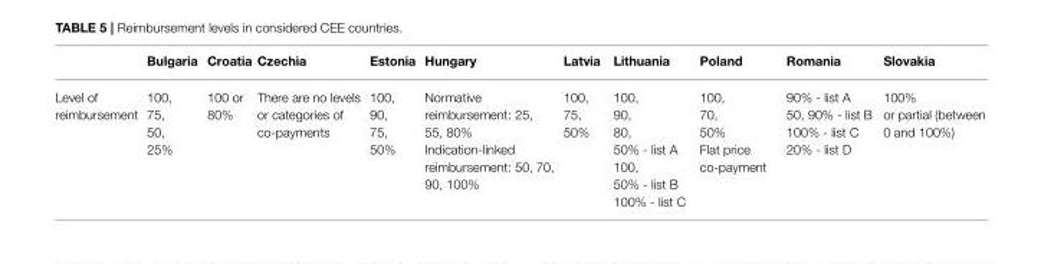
<table><thead><tr><td></td><td>Bulgaria</td><td>Croatia</td><td>Czechia</td><td>Estonia</td><td>Hungary</td><td>Latvia</td><td>Lithuania</td><td>Poland</td><td>Romania</td><td>Slovakia</td></tr></thead><tbody><tr><td>Level of reimbursement</td><td>100, 75, 50, 25%</td><td>100 or 80%</td><td>There are no levels or categories of co-payments</td><td>100, 90, 75, 50%</td><td>Normative reimbursement: 25, 55, 80% Indication-linked reimbursement: 50, 70, 90, 100%</td><td>100, 75, 50%</td><td>100, 90, 80, 50% - list A 100, 50% - list B 100% - list C</td><td>100, 70, 50% Flat price co-payment</td><td>90% - list A 50, 90% - list B 100% - list C 20% - list D</td><td>100% or partial (between 0 and 100%)</td></tr></tbody></table>